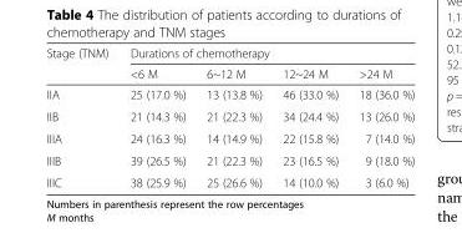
<table><thead><tr><td rowspan="2">Stage (TNM)</td><td colspan="4">Durations of chemotherapy</td></tr><tr><td>&lt;6 M</td><td>6~12 M</td><td>12~24 M</td><td>&gt;24 M</td></tr></thead><tbody><tr><td>IIA</td><td>25 (17.0 %)</td><td>13 (13.8 %)</td><td>46 (33.0 %)</td><td>18 (36.0 %)</td></tr><tr><td>IIB</td><td>21 (14.3 %)</td><td>21 (22.3 %)</td><td>34 (24.4 %)</td><td>13 (26.0 %)</td></tr><tr><td>IIIA</td><td>24 (16.3 %)</td><td>14 (14.9 %)</td><td>22 (15.8 %)</td><td>7 (14.0 %)</td></tr><tr><td>IIIB</td><td>39 (26.5 %)</td><td>21 (22.3 %)</td><td>23 (16.5 %)</td><td>9 (18.0 %)</td></tr><tr><td>IIIC</td><td>38 (25.9 %)</td><td>25 (26.6 %)</td><td>14 (10.0 %)</td><td>3 (6.0 %)</td></tr></tbody></table>